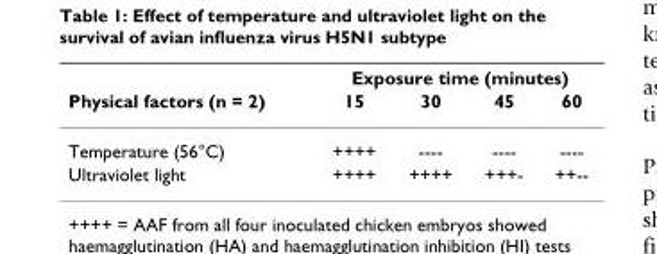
<table><thead><tr><td rowspan="2">Physical factors (n = 2)</td><td colspan="4">Exposure time (minutes)</td></tr><tr><td>15</td><td>30</td><td>45</td><td>60</td></tr></thead><tbody><tr><td>Temperature (56°C)</td><td>++++</td><td>----</td><td>----</td><td>----</td></tr><tr><td>Ultraviolet light</td><td>++++</td><td>++++</td><td>+++-</td><td>++--</td></tr></tbody></table>